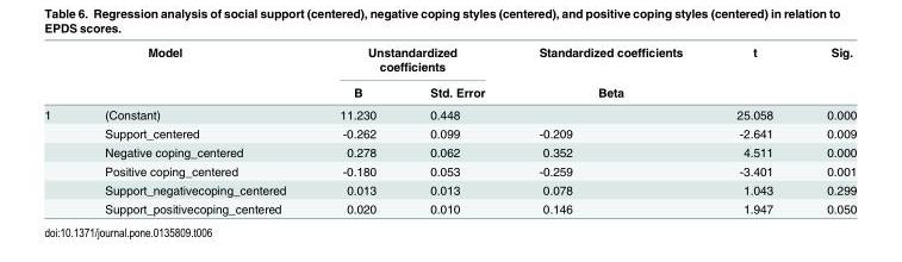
<table><thead><tr><td rowspan="2" colspan="2">Model</td><td colspan="2">Unstandardized coefficients</td><td rowspan="3">Standardized coefficients Beta</td><td rowspan="3">t 25.058</td><td rowspan="3">Sig. 0.000</td></tr><tr><td rowspan="2">B 11.230</td><td rowspan="2">Std. Error 0.448</td></tr><tr><td>1</td><td>(Constant)</td></tr></thead><tbody><tr><td></td><td>Support_centered</td><td>-0.262</td><td>0.099</td><td>-0.209</td><td>-2.641</td><td>0.009</td></tr><tr><td></td><td>Negative coping_centered</td><td>0.278</td><td>0.062</td><td>0.352</td><td>4.511</td><td>0.000</td></tr><tr><td></td><td>Positive coping_centered</td><td>-0.180</td><td>0.053</td><td>-0.259</td><td>-3.401</td><td>0.001</td></tr><tr><td></td><td>Support_negativecoping_centered</td><td>0.013</td><td>0.013</td><td>0.078</td><td>1.043</td><td>0.299</td></tr><tr><td></td><td>Support_positivecoping_centered</td><td>0.020</td><td>0.010</td><td>0.146</td><td>1.947</td><td>0.050</td></tr></tbody></table>